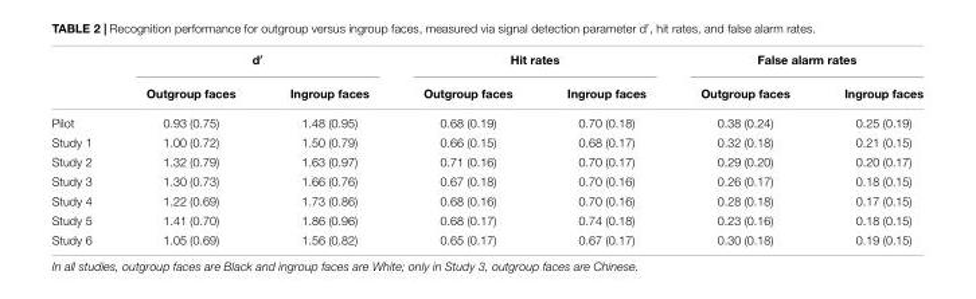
<table><thead><tr><td rowspan="2"></td><td colspan="2">d′</td><td colspan="2">Hit rates</td><td colspan="2">False alarm rates</td></tr><tr><td>Outgroup faces</td><td>Ingroup faces</td><td>Outgroup faces</td><td>Ingroup faces</td><td>Outgroup faces</td><td>Ingroup faces</td></tr></thead><tbody><tr><td>Pilot</td><td>0.93 (0.75)</td><td>1.48 (0.95)</td><td>0.68 (0.19)</td><td>0.70 (0.18)</td><td>0.38 (0.24)</td><td>0.25 (0.19)</td></tr><tr><td>Study 1</td><td>1.00 (0.72)</td><td>1.50 (0.79)</td><td>0.66 (0.15)</td><td>0.68 (0.17)</td><td>0.32 (0.18)</td><td>0.21 (0.15)</td></tr><tr><td>Study 2</td><td>1.32 (0.79)</td><td>1.63 (0.97)</td><td>0.71 (0.16)</td><td>0.70 (0.17)</td><td>0.29 (0.20)</td><td>0.20 (0.17)</td></tr><tr><td>Study 3</td><td>1.30 (0.73)</td><td>1.66 (0.76)</td><td>0.67 (0.18)</td><td>0.70 (0.16)</td><td>0.26 (0.17)</td><td>0.18 (0.15)</td></tr><tr><td>Study 4</td><td>1.22 (0.69)</td><td>1.73 (0.86)</td><td>0.68 (0.16)</td><td>0.70 (0.16)</td><td>0.28 (0.18)</td><td>0.17 (0.15)</td></tr><tr><td>Study 5</td><td>1.41 (0.70)</td><td>1.86 (0.96)</td><td>0.68 (0.17)</td><td>0.74 (0.18)</td><td>0.23 (0.16)</td><td>0.18 (0.15)</td></tr><tr><td>Study 6</td><td>1.05 (0.69)</td><td>1.56 (0.82)</td><td>0.65 (0.17)</td><td>0.67 (0.17)</td><td>0.30 (0.18)</td><td>0.19 (0.15)</td></tr></tbody></table>